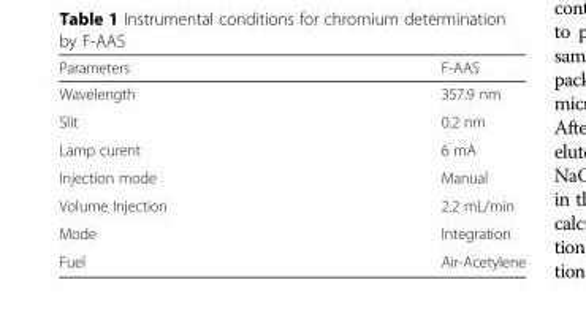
<table><thead><tr><td>Parameters</td><td>F-AAS</td></tr></thead><tbody><tr><td>Wavelength</td><td>357.9 nm</td></tr><tr><td>Slit</td><td>0.2 nm</td></tr><tr><td>Lamp curent</td><td>6 mA</td></tr><tr><td>Injection mode</td><td>Manual</td></tr><tr><td>Volume Injection</td><td>2.2 mL/min</td></tr><tr><td>Mode</td><td>Integration</td></tr><tr><td>Fuel</td><td>Air-Acetylene</td></tr></tbody></table>